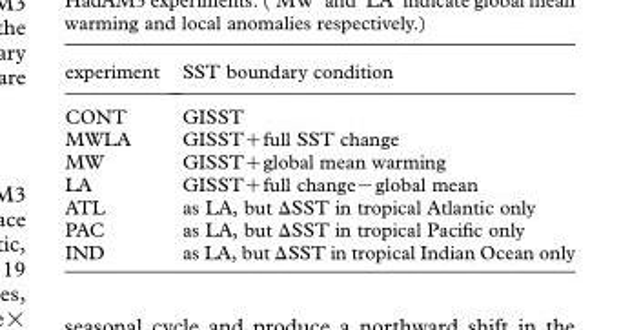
<table><thead><tr><td>experiment</td><td>SST boundary condition</td></tr></thead><tbody><tr><td>CONT</td><td>GISST</td></tr><tr><td>MWLA</td><td>GISST+full SST change</td></tr><tr><td>MW</td><td>GISST+global mean warming</td></tr><tr><td>LA</td><td>GISST+full change−global mean</td></tr><tr><td>ATL</td><td>as LA, but ΔSST in tropical Atlantic only</td></tr><tr><td>PAC</td><td>as LA, but ΔSST in tropical Pacific only</td></tr><tr><td>IND</td><td>as LA, but ΔSST in tropical Indian Ocean only</td></tr></tbody></table>